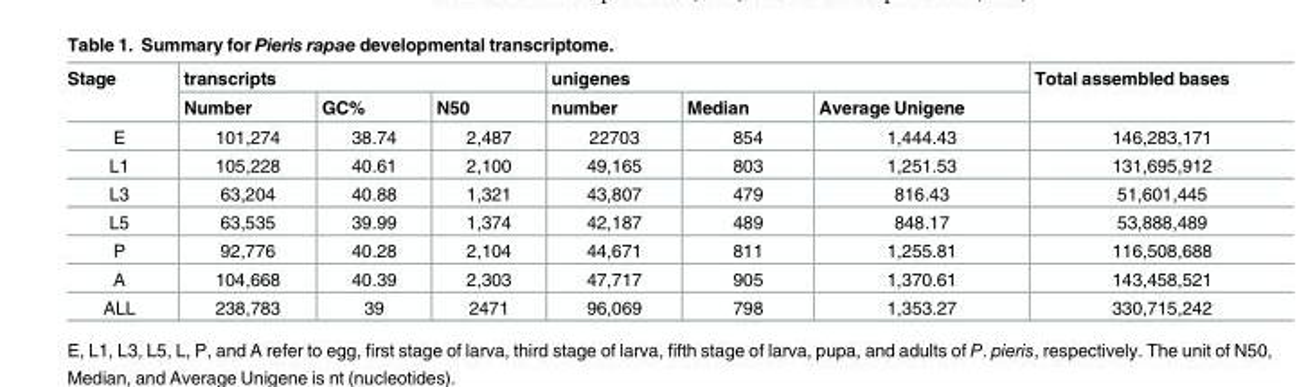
<table><thead><tr><td rowspan="2">Stage</td><td colspan="3">transcripts</td><td colspan="3">unigenes</td><td rowspan="2">Total assembled bases</td></tr><tr><td>Number</td><td>GC%</td><td>N50</td><td>number</td><td>Median</td><td>Average Unigene</td></tr></thead><tbody><tr><td>E</td><td>101,274</td><td>38.74</td><td>2,487</td><td>22703</td><td>854</td><td>1,444.43</td><td>146,283,171</td></tr><tr><td>L1</td><td>105,228</td><td>40.61</td><td>2,100</td><td>49,165</td><td>803</td><td>1,251.53</td><td>131,695,912</td></tr><tr><td>L3</td><td>63,204</td><td>40.88</td><td>1,321</td><td>43,807</td><td>479</td><td>816.43</td><td>51,601,445</td></tr><tr><td>L5</td><td>63,535</td><td>39.99</td><td>1,374</td><td>42,187</td><td>489</td><td>848.17</td><td>53,888,489</td></tr><tr><td>P</td><td>92,776</td><td>40.28</td><td>2,104</td><td>44,671</td><td>811</td><td>1,255.81</td><td>116,508,688</td></tr><tr><td>A</td><td>104,668</td><td>40.39</td><td>2,303</td><td>47,717</td><td>905</td><td>1,370.61</td><td>143,458,521</td></tr><tr><td>ALL</td><td>238,783</td><td>39</td><td>2471</td><td>96,069</td><td>798</td><td>1,353.27</td><td>330,715,242</td></tr></tbody></table>